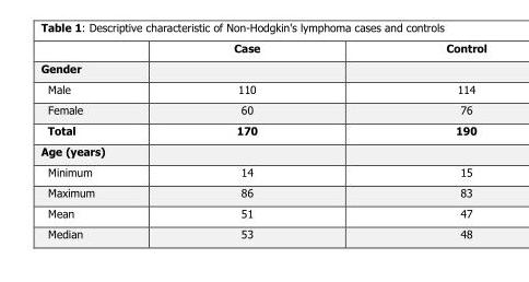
<table><thead><tr><td></td><td>Case</td><td>Control</td></tr></thead><tbody><tr><td colspan="3">Gender</td></tr><tr><td>Male</td><td>110</td><td>114</td></tr><tr><td>Female</td><td>60</td><td>76</td></tr><tr><td>Total</td><td>170</td><td>190</td></tr><tr><td colspan="3">Age (years)</td></tr><tr><td>Minimum</td><td>14</td><td>15</td></tr><tr><td>Maximum</td><td>86</td><td>83</td></tr><tr><td>Mean</td><td>51</td><td>47</td></tr><tr><td>Median</td><td>53</td><td>48</td></tr></tbody></table>